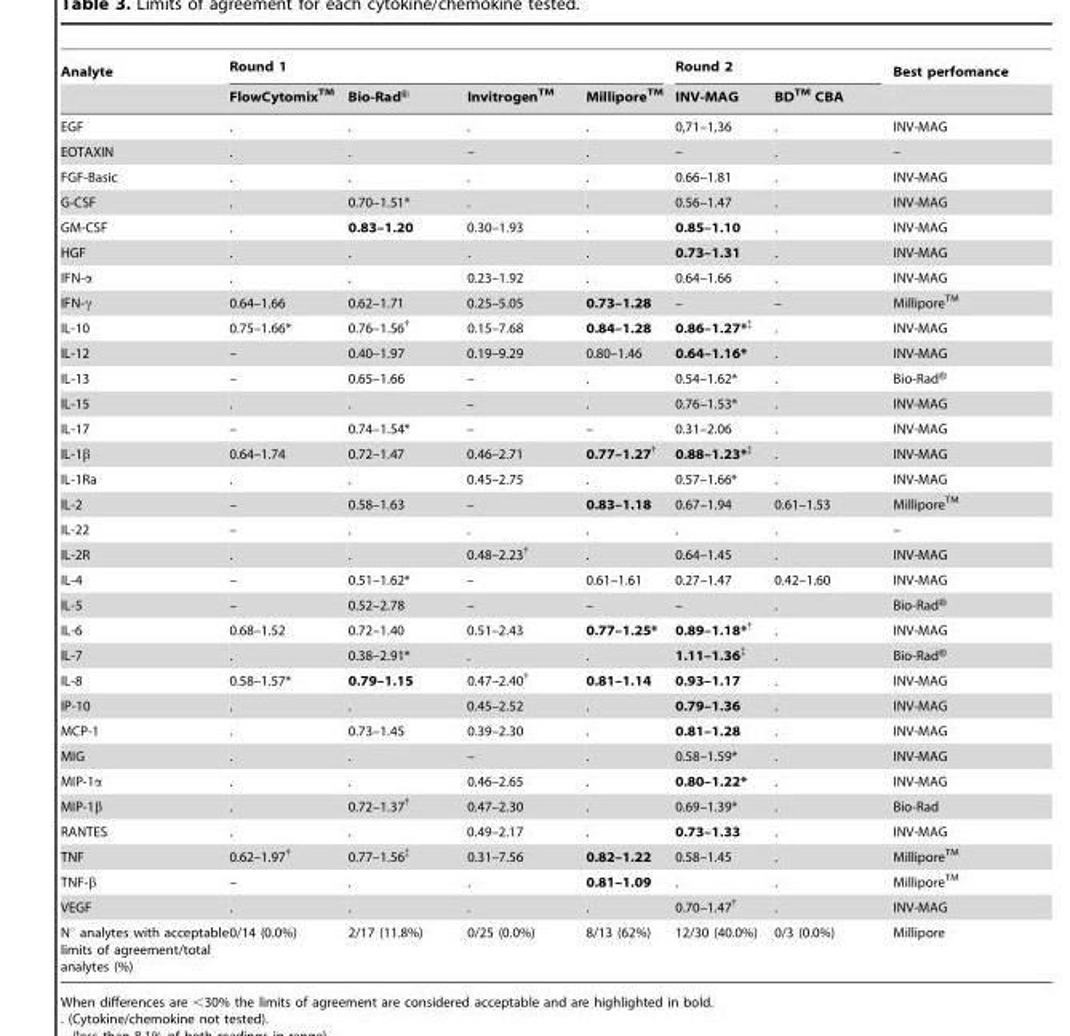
<table><thead><tr><td rowspan="2">Analyte</td><td colspan="4">Round 1</td><td colspan="2">Round 2</td><td rowspan="2">Best perfomance</td></tr><tr><td>FlowCytomixTM</td><td>Bio-Rad®</td><td>InvitrogenTM</td><td>MilliporeTM</td><td>INV-MAG</td><td>BDTM CBA</td></tr></thead><tbody><tr><td>EGF</td><td>.</td><td>.</td><td>.</td><td>.</td><td>0,71–1,36</td><td>.</td><td>INV-MAG</td></tr><tr><td>EOTAXIN</td><td>.</td><td>.</td><td>–</td><td>.</td><td>–</td><td>.</td><td>–</td></tr><tr><td>FGF-Basic</td><td>.</td><td>.</td><td>.</td><td>.</td><td>0.66–1.81</td><td>.</td><td>INV-MAG</td></tr><tr><td>G-CSF</td><td>.</td><td>0.70–1.51*</td><td>.</td><td>.</td><td>0.56–1.47</td><td>.</td><td>INV-MAG</td></tr><tr><td>GM-CSF</td><td>.</td><td>0.83–1.20</td><td>0.30–1.93</td><td>.</td><td>0.85–1.10</td><td>.</td><td>INV-MAG</td></tr><tr><td>HGF</td><td>.</td><td>.</td><td>.</td><td>.</td><td>0.73–1.31</td><td>.</td><td>INV-MAG</td></tr><tr><td>IFN-α</td><td>.</td><td>.</td><td>0.23–1.92</td><td>.</td><td>0.64–1.66</td><td>.</td><td>INV-MAG</td></tr><tr><td>IFN-γ</td><td>0.64–1.66</td><td>0.62–1.71</td><td>0.25–5.05</td><td>0.73–1.28</td><td>–</td><td>–</td><td>MilliporeTM</td></tr><tr><td>IL-10</td><td>0.75–1.66*</td><td>0.76–1.56†</td><td>0.15–7.68</td><td>0.84–1.28</td><td>0.86–1.27*‡</td><td>.</td><td>INV-MAG</td></tr><tr><td>IL-12</td><td>–</td><td>0.40–1.97</td><td>0.19–9.29</td><td>0.80–1.46</td><td>0.64–1.16*</td><td>.</td><td>INV-MAG</td></tr><tr><td>IL-13</td><td>–</td><td>0.65–1.66</td><td>–</td><td>.</td><td>0.54–1.62*</td><td>.</td><td>Bio-Rad®</td></tr><tr><td>IL-15</td><td>.</td><td>.</td><td>–</td><td>.</td><td>0.76–1.53*</td><td>.</td><td>INV-MAG</td></tr><tr><td>IL-17</td><td>–</td><td>0.74–1.54*</td><td>–</td><td>–</td><td>0.31–2.06</td><td>.</td><td>INV-MAG</td></tr><tr><td>IL-1β</td><td>0.64–1.74</td><td>0.72–1.47</td><td>0.46–2.71</td><td>0.77–1.27†</td><td>0.88–1.23*‡</td><td>.</td><td>INV-MAG</td></tr><tr><td>IL-1Ra</td><td>.</td><td>.</td><td>0.45–2.75</td><td>.</td><td>0.57–1.66*</td><td>.</td><td>INV-MAG</td></tr><tr><td>IL-2</td><td>–</td><td>0.58–1.63</td><td>–</td><td>0.83–1.18</td><td>0.67–1.94</td><td>0.61–1.53</td><td>MilliporeTM</td></tr><tr><td>IL-22</td><td>–</td><td>.</td><td>.</td><td>.</td><td>.</td><td>.</td><td>–</td></tr><tr><td>IL-2R</td><td>.</td><td>.</td><td>0.48–2.23†</td><td>.</td><td>0.64–1.45</td><td>.</td><td>INV-MAG</td></tr><tr><td>IL-4</td><td>–</td><td>0.51–1.62*</td><td>–</td><td>0.61–1.61</td><td>0.27–1.47</td><td>0.42–1.60</td><td>INV-MAG</td></tr><tr><td>IL-5</td><td>–</td><td>0.52–2.78</td><td>–</td><td>–</td><td>–</td><td>.</td><td>Bio-Rad®</td></tr><tr><td>IL-6</td><td>0.68–1.52</td><td>0.72–1.40</td><td>0.51–2.43</td><td>0.77–1.25*</td><td>0.89–1.18*†</td><td>.</td><td>INV-MAG</td></tr><tr><td>IL-7</td><td>.</td><td>0.38–2.91*</td><td>.</td><td>.</td><td>1.11–1.36‡</td><td>.</td><td>Bio-Rad®</td></tr><tr><td>IL-8</td><td>0.58–1.57*</td><td>0.79–1.15</td><td>0.47–2.40†</td><td>0.81–1.14</td><td>0.93–1.17</td><td>.</td><td>INV-MAG</td></tr><tr><td>IP-10</td><td>.</td><td>.</td><td>0.45–2.52</td><td>.</td><td>0.79–1.36</td><td>.</td><td>INV-MAG</td></tr><tr><td>MCP-1</td><td>.</td><td>0.73–1.45</td><td>0.39–2.30</td><td>.</td><td>0.81–1.28</td><td>.</td><td>INV-MAG</td></tr><tr><td>MIG</td><td>.</td><td>.</td><td>–</td><td>.</td><td>0.58–1.59*</td><td>.</td><td>INV-MAG</td></tr><tr><td>MIP-1α</td><td>.</td><td>.</td><td>0.46–2.65</td><td>.</td><td>0.80–1.22*</td><td>.</td><td>INV-MAG</td></tr><tr><td>MIP-1β</td><td>.</td><td>0.72–1.37†</td><td>0.47–2.30</td><td>.</td><td>0.69–1.39*</td><td>.</td><td>Bio-Rad</td></tr><tr><td>RANTES</td><td>.</td><td>.</td><td>0.49–2.17</td><td>.</td><td>0.73–1.33</td><td>.</td><td>INV-MAG</td></tr><tr><td>TNF</td><td>0.62–1.97†</td><td>0.77–1.56‡</td><td>0.31–7.56</td><td>0.82–1.22</td><td>0.58–1.45</td><td>.</td><td>MilliporeTM</td></tr><tr><td>TNF-β</td><td>–</td><td>.</td><td>.</td><td>0.81–1.09</td><td>.</td><td>.</td><td>MilliporeTM</td></tr><tr><td>VEGF</td><td>.</td><td>.</td><td>.</td><td>.</td><td>0.70–1.47†</td><td>.</td><td>INV-MAG</td></tr><tr><td>N° analytes with acceptable limits of agreement/total analytes (%)</td><td>0/14 (0.0%)</td><td>2/17 (11.8%)</td><td>0/25 (0.0%)</td><td>8/13 (62%)</td><td>12/30 (40.0%)</td><td>0/3 (0.0%)</td><td>Millipore</td></tr></tbody></table>